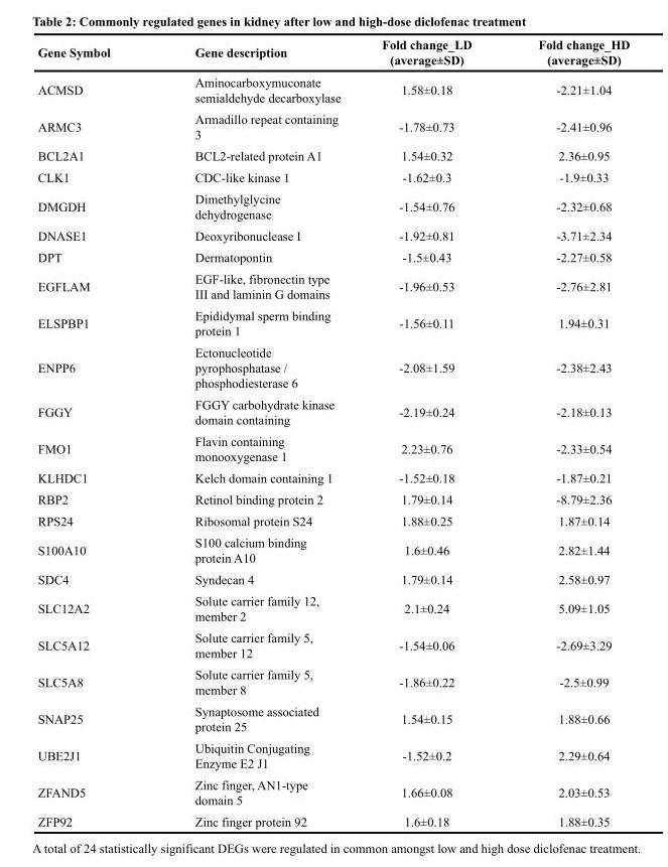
<table><thead><tr><td>Gene Symbol</td><td>Gene description</td><td>Fold change_LD (average±SD)</td><td>Fold change_HD (average±SD)</td></tr></thead><tbody><tr><td>ACMSD</td><td>Aminocarboxymuconate semialdehyde decarboxylase</td><td>1.58±0.18</td><td>-2.21±1.04</td></tr><tr><td>ARMC3</td><td>Armadillo repeat containing 3</td><td>-1.78±0.73</td><td>-2.41±0.96</td></tr><tr><td>BCL2A1</td><td>BCL2-related protein A1</td><td>1.54±0.32</td><td>2.36±0.95</td></tr><tr><td>CLK1</td><td>CDC-like kinase 1</td><td>-1.62±0.3</td><td>-1.9±0.33</td></tr><tr><td>DMGDH</td><td>Dimethylglycine dehydrogenase</td><td>-1.54±0.76</td><td>-2.32±0.68</td></tr><tr><td>DNASE1</td><td>Deoxyribonuclease I</td><td>-1.92±0.81</td><td>-3.71±2.34</td></tr><tr><td>DPT</td><td>Dermatopontin</td><td>-1.5±0.43</td><td>-2.27±0.58</td></tr><tr><td>EGFLAM</td><td>EGF-like, fibronectin type III and laminin G domains</td><td>-1.96±0.53</td><td>-2.76±2.81</td></tr><tr><td>ELSPBP1</td><td>Epididymal sperm binding protein 1</td><td>-1.56±0.11</td><td>1.94±0.31</td></tr><tr><td>ENPP6</td><td>Ectonucleotide pyrophosphatase / phosphodiesterase 6</td><td>-2.08±1.59</td><td>-2.38±2.43</td></tr><tr><td>FGGY</td><td>FGGY carbohydrate kinase domain containing</td><td>-2.19±0.24</td><td>-2.18±0.13</td></tr><tr><td>FMO1</td><td>Flavin containing monooxygenase 1</td><td>2.23±0.76</td><td>-2.33±0.54</td></tr><tr><td>KLHDC1</td><td>Kelch domain containing 1</td><td>-1.52±0.18</td><td>-1.87±0.21</td></tr><tr><td>RBP2</td><td>Retinol binding protein 2</td><td>1.79±0.14</td><td>-8.79±2.36</td></tr><tr><td>RPS24</td><td>Ribosomal protein S24</td><td>1.88±0.25</td><td>1.87±0.14</td></tr><tr><td>S100A10</td><td>S100 calcium binding protein A10</td><td>1.6±0.46</td><td>2.82±1.44</td></tr><tr><td>SDC4</td><td>Syndecan 4</td><td>1.79±0.14</td><td>2.58±0.97</td></tr><tr><td>SLC12A2</td><td>Solute carrier family 12, member 2</td><td>2.1±0.24</td><td>5.09±1.05</td></tr><tr><td>SLC5A12</td><td>Solute carrier family 5, member 12</td><td>-1.54±0.06</td><td>-2.69±3.29</td></tr><tr><td>SLC5A8</td><td>Solute carrier family 5, member 8</td><td>-1.86±0.22</td><td>-2.5±0.99</td></tr><tr><td>SNAP25</td><td>Synaptosome associated protein 25</td><td>1.54±0.15</td><td>1.88±0.66</td></tr><tr><td>UBE2J1</td><td>Ubiquitin Conjugating Enzyme E2 J1</td><td>-1.52±0.2</td><td>2.29±0.64</td></tr><tr><td>ZFAND5</td><td>Zinc finger, AN1-type domain 5</td><td>1.66±0.08</td><td>2.03±0.53</td></tr><tr><td>ZFP92</td><td>Zinc finger protein 92</td><td>1.6±0.18</td><td>1.88±0.35</td></tr></tbody></table>